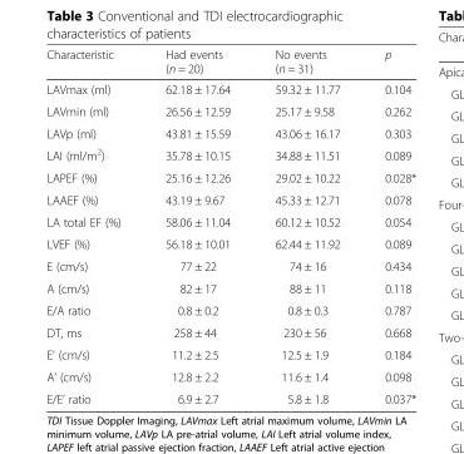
<table><thead><tr><td>Characteristic</td><td>Had events (n = 20)</td><td>No events (n = 31)</td><td>p</td></tr></thead><tbody><tr><td>LAVmax (ml)</td><td>62.18 ± 17.64</td><td>59.32 ± 11.77</td><td>0.104</td></tr><tr><td>LAVmin (ml)</td><td>26.56 ± 12.59</td><td>25.17 ± 9.58</td><td>0.262</td></tr><tr><td>LAVp (ml)</td><td>43.81 ± 15.59</td><td>43.06 ± 16.17</td><td>0.303</td></tr><tr><td>LAI (ml/m<sup>2</sup>)</td><td>35.78 ± 10.15</td><td>34.88 ± 11.51</td><td>0.089</td></tr><tr><td>LAPEF (%)</td><td>25.16 ± 12.26</td><td>29.02 ± 10.22</td><td>0.028*</td></tr><tr><td>LAAEF (%)</td><td>43.19 ± 9.67</td><td>45.33 ± 12.71</td><td>0.078</td></tr><tr><td>LA total EF (%)</td><td>58.06 ± 11.04</td><td>60.12 ± 10.52</td><td>0.054</td></tr><tr><td>LVEF (%)</td><td>56.18 ± 10.01</td><td>62.44 ± 11.92</td><td>0.089</td></tr><tr><td>E (cm/s)</td><td>77 ± 22</td><td>74 ± 16</td><td>0.434</td></tr><tr><td>A (cm/s)</td><td>82 ± 17</td><td>88 ± 11</td><td>0.118</td></tr><tr><td>E/A ratio</td><td>0.8 ± 0.2</td><td>0.8 ± 0.3</td><td>0.787</td></tr><tr><td>DT, ms</td><td>258 ± 44</td><td>230 ± 56</td><td>0.668</td></tr><tr><td>E’ (cm/s)</td><td>11.2 ± 2.5</td><td>12.5 ± 1.9</td><td>0.184</td></tr><tr><td>A’ (cm/s)</td><td>12.8 ± 2.2</td><td>11.6 ± 1.4</td><td>0.098</td></tr><tr><td>E/E’ ratio</td><td>6.9 ± 2.7</td><td>5.8 ± 1.8</td><td>0.037*</td></tr></tbody></table>